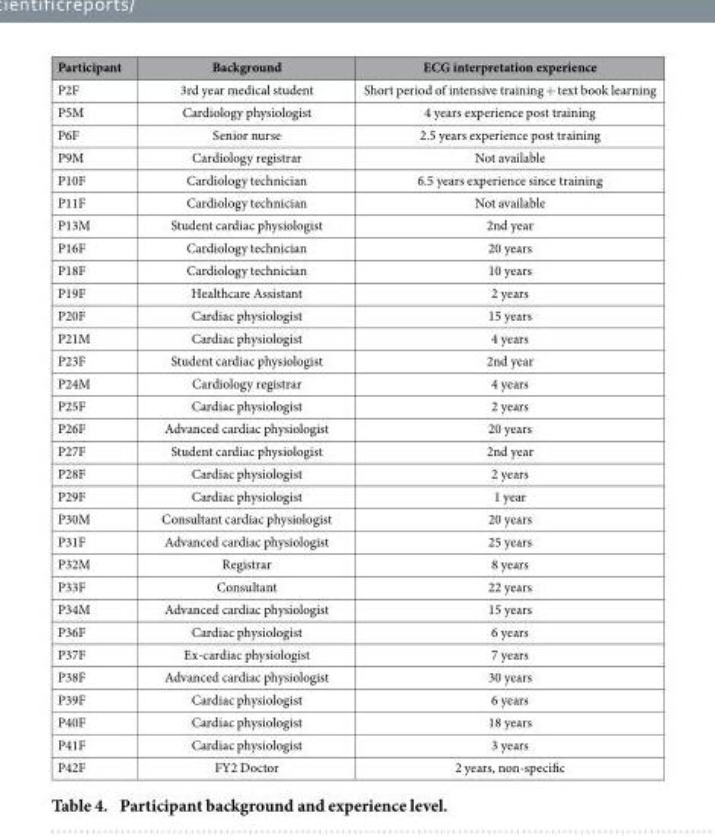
<table><thead><tr><td>Participant</td><td>Background</td><td>ECG interpretation experience</td></tr></thead><tbody><tr><td>P2F</td><td>3rd year medical student</td><td>Short period of intensive training + text book learning</td></tr><tr><td>P5M</td><td>Cardiology physiologist</td><td>4 years experience post training</td></tr><tr><td>P6F</td><td>Senior nurse</td><td>2.5 years experience post training</td></tr><tr><td>P9M</td><td>Cardiology registrar</td><td>Not available</td></tr><tr><td>P10F</td><td>Cardiology technician</td><td>6.5 years experience since training</td></tr><tr><td>P11F</td><td>Cardiology technician</td><td>Not available</td></tr><tr><td>P13M</td><td>Student cardiac physiologist</td><td>2nd year</td></tr><tr><td>P16F</td><td>Cardiology technician</td><td>20 years</td></tr><tr><td>P18F</td><td>Cardiology technician</td><td>10 years</td></tr><tr><td>P19F</td><td>Healthcare Assistant</td><td>2 years</td></tr><tr><td>P20F</td><td>Cardiac physiologist</td><td>15 years</td></tr><tr><td>P21M</td><td>Cardiac physiologist</td><td>4 years</td></tr><tr><td>P23F</td><td>Student cardiac physiologist</td><td>2nd year</td></tr><tr><td>P24M</td><td>Cardiology registrar</td><td>4 years</td></tr><tr><td>P25F</td><td>Cardiac physiologist</td><td>2 years</td></tr><tr><td>P26F</td><td>Advanced cardiac physiologist</td><td>20 years</td></tr><tr><td>P27F</td><td>Student cardiac physiologist</td><td>2nd year</td></tr><tr><td>P28F</td><td>Cardiac physiologist</td><td>2 years</td></tr><tr><td>P29F</td><td>Cardiac physiologist</td><td>1 year</td></tr><tr><td>P30M</td><td>Consultant cardiac physiologist</td><td>20 years</td></tr><tr><td>P31F</td><td>Advanced cardiac physiologist</td><td>25 years</td></tr><tr><td>P32M</td><td>Registrar</td><td>8 years</td></tr><tr><td>P33F</td><td>Consultant</td><td>22 years</td></tr><tr><td>P34M</td><td>Advanced cardiac physiologist</td><td>15 years</td></tr><tr><td>P36F</td><td>Cardiac physiologist</td><td>6 years</td></tr><tr><td>P37F</td><td>Ex-cardiac physiologist</td><td>7 years</td></tr><tr><td>P38F</td><td>Advanced cardiac physiologist</td><td>30 years</td></tr><tr><td>P39F</td><td>Cardiac physiologist</td><td>6 years</td></tr><tr><td>P40F</td><td>Cardiac physiologist</td><td>18 years</td></tr><tr><td>P41F</td><td>Cardiac physiologist</td><td>3 years</td></tr><tr><td>P42F</td><td>FY2 Doctor</td><td>2 years, non-specific</td></tr></tbody></table>